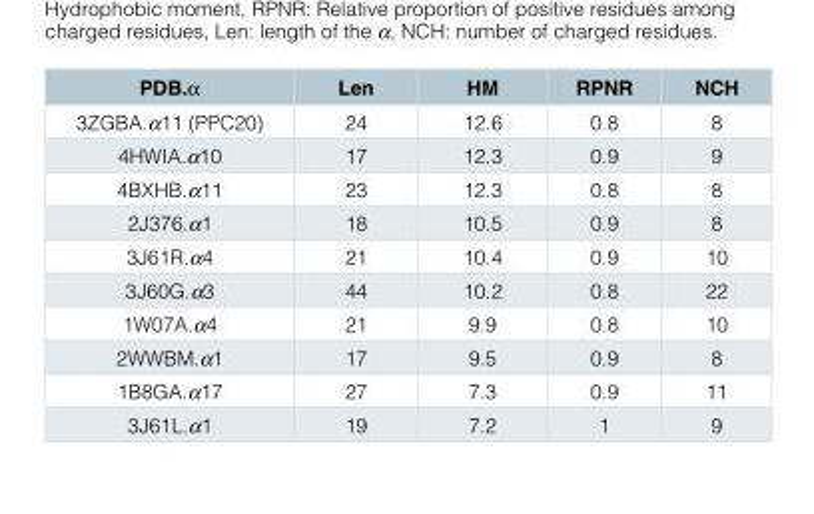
<table><thead><tr><td>PDB.α</td><td>Len</td><td>HM</td><td>RPNR</td><td>NCH</td></tr></thead><tbody><tr><td>3ZGBA.α11 (PPC20)</td><td>24</td><td>12.6</td><td>0.8</td><td>8</td></tr><tr><td>4HWIA.α10</td><td>17</td><td>12.3</td><td>0.9</td><td>9</td></tr><tr><td>4BXHB.α11</td><td>23</td><td>12.3</td><td>0.8</td><td>8</td></tr><tr><td>2J376.α1</td><td>18</td><td>10.5</td><td>0.9</td><td>8</td></tr><tr><td>3J61R.α4</td><td>21</td><td>10.4</td><td>0.9</td><td>10</td></tr><tr><td>3J60G.α3</td><td>44</td><td>10.2</td><td>0.8</td><td>22</td></tr><tr><td>1W07A.α4</td><td>21</td><td>9.9</td><td>0.8</td><td>10</td></tr><tr><td>2WWBM.α1</td><td>17</td><td>9.5</td><td>0.9</td><td>8</td></tr><tr><td>1B8GA.α17</td><td>27</td><td>7.3</td><td>0.9</td><td>11</td></tr><tr><td>3J61L.α1</td><td>19</td><td>7.2</td><td>1</td><td>9</td></tr></tbody></table>